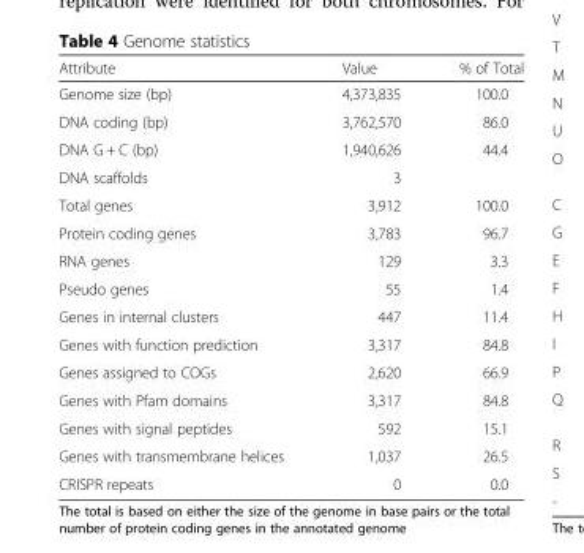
<table><thead><tr><td>Attribute</td><td>Value</td><td>% of Total</td></tr></thead><tbody><tr><td>Genome size (bp)</td><td>4,373,835</td><td>100.0</td></tr><tr><td>DNA coding (bp)</td><td>3,762,570</td><td>86.0</td></tr><tr><td>DNA G + C (bp)</td><td>1,940,626</td><td>44.4</td></tr><tr><td>DNA scaffolds</td><td>3</td><td></td></tr><tr><td>Total genes</td><td>3,912</td><td>100.0</td></tr><tr><td>Protein coding genes</td><td>3,783</td><td>96.7</td></tr><tr><td>RNA genes</td><td>129</td><td>3.3</td></tr><tr><td>Pseudo genes</td><td>55</td><td>1.4</td></tr><tr><td>Genes in internal clusters</td><td>447</td><td>11.4</td></tr><tr><td>Genes with function prediction</td><td>3,317</td><td>84.8</td></tr><tr><td>Genes assigned to COGs</td><td>2,620</td><td>66.9</td></tr><tr><td>Genes with Pfam domains</td><td>3,317</td><td>84.8</td></tr><tr><td>Genes with signal peptides</td><td>592</td><td>15.1</td></tr><tr><td>Genes with transmembrane helices</td><td>1,037</td><td>26.5</td></tr><tr><td>CRISPR repeats</td><td>0</td><td>0.0</td></tr></tbody></table>